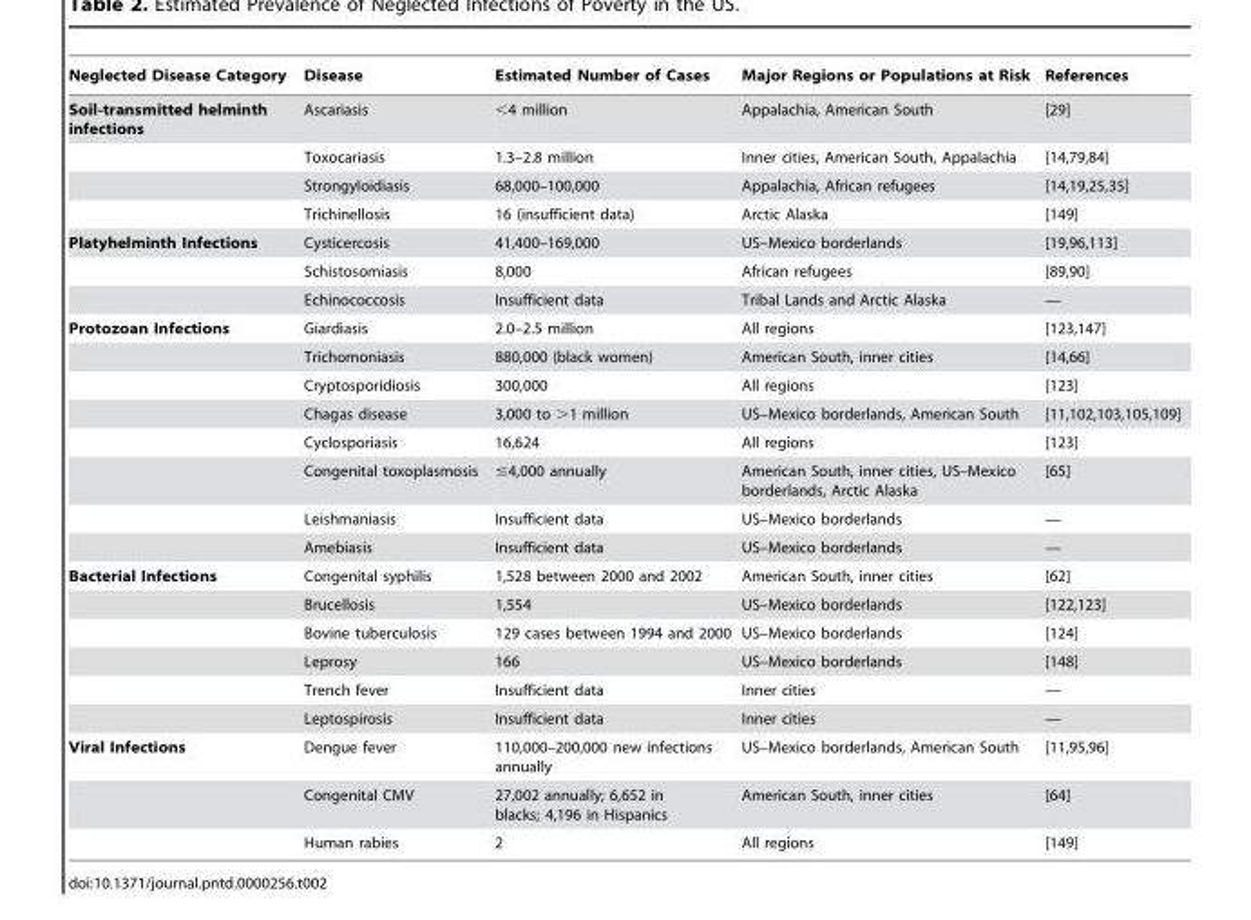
<table><thead><tr><td>Neglected Disease Category</td><td>Disease</td><td>Estimated Number of Cases</td><td>Major Regions or Populations at Risk</td><td>References</td></tr></thead><tbody><tr><td rowspan="4">Soil-transmitted helminth infections</td><td>Ascariasis</td><td>&lt;4 million</td><td>Appalachia, American South</td><td>[29]</td></tr><tr><td>Toxocariasis</td><td>1.3–2.8 million</td><td>Inner cities, American South, Appalachia</td><td>[14,79,84]</td></tr><tr><td>Strongyloidiasis</td><td>68,000–100,000</td><td>Appalachia, African refugees</td><td>[14,19,25,35]</td></tr><tr><td>Trichinellosis</td><td>16 (insufficient data)</td><td>Arctic Alaska</td><td>[149]</td></tr><tr><td rowspan="3">Platyhelminth Infections</td><td>Cysticercosis</td><td>41,400–169,000</td><td>US–Mexico borderlands</td><td>[19,96,113]</td></tr><tr><td>Schistosomiasis</td><td>8,000</td><td>African refugees</td><td>[89,90]</td></tr><tr><td>Echinococcosis</td><td>Insufficient data</td><td>Tribal Lands and Arctic Alaska</td><td>—</td></tr><tr><td rowspan="8">Protozoan Infections</td><td>Giardiasis</td><td>2.0–2.5 million</td><td>All regions</td><td>[123,147]</td></tr><tr><td>Trichomoniasis</td><td>880,000 (black women)</td><td>American South, inner cities</td><td>[14,66]</td></tr><tr><td>Cryptosporidiosis</td><td>300,000</td><td>All regions</td><td>[123]</td></tr><tr><td>Chagas disease</td><td>3,000 to &gt;1 million</td><td>US–Mexico borderlands, American South</td><td>[11,102,103,105,109]</td></tr><tr><td>Cyclosporiasis</td><td>16,624</td><td>All regions</td><td>[123]</td></tr><tr><td>Congenital toxoplasmosis</td><td>≤4,000 annually</td><td>American South, inner cities, US–Mexico borderlands, Arctic Alaska</td><td>[65]</td></tr><tr><td>Leishmaniasis</td><td>Insufficient data</td><td>US–Mexico borderlands</td><td>—</td></tr><tr><td>Amebiasis</td><td>Insufficient data</td><td>US–Mexico borderlands</td><td>—</td></tr><tr><td rowspan="6">Bacterial Infections</td><td>Congenital syphilis</td><td>1,528 between 2000 and 2002</td><td>American South, inner cities</td><td>[62]</td></tr><tr><td>Brucellosis</td><td>1,554</td><td>US–Mexico borderlands</td><td>[122,123]</td></tr><tr><td>Bovine tuberculosis</td><td>129 cases between 1994 and 2000</td><td>US–Mexico borderlands</td><td>[124]</td></tr><tr><td>Leprosy</td><td>166</td><td>US–Mexico borderlands</td><td>[148]</td></tr><tr><td>Trench fever</td><td>Insufficient data</td><td>Inner cities</td><td>—</td></tr><tr><td>Leptospirosis</td><td>Insufficient data</td><td>Inner cities</td><td>—</td></tr><tr><td rowspan="3">Viral Infections</td><td>Dengue fever</td><td>110,000–200,000 new infections annually</td><td>US–Mexico borderlands, American South</td><td>[11,95,96]</td></tr><tr><td>Congenital CMV</td><td>27,002 annually; 6,652 in blacks; 4,196 in Hispanics</td><td>American South, inner cities</td><td>[64]</td></tr><tr><td>Human rabies</td><td>2</td><td>All regions</td><td>[149]</td></tr></tbody></table>